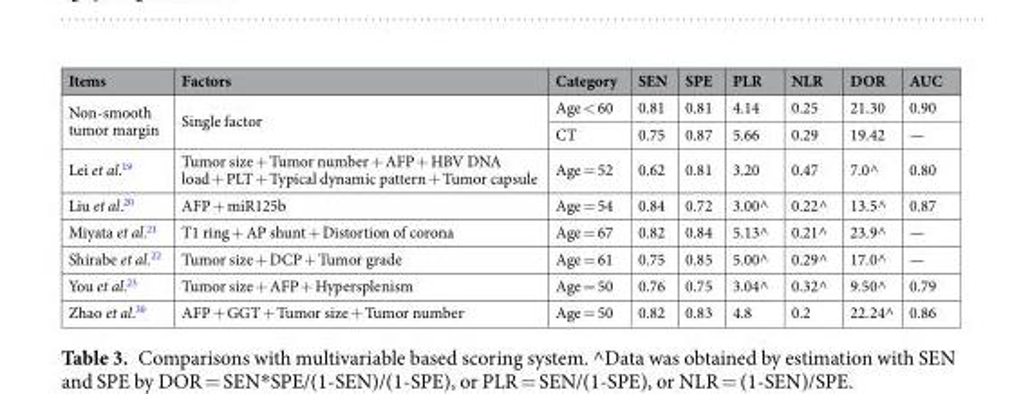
<table><thead><tr><td>Items</td><td>Factors</td><td>Category</td><td>SEN</td><td>SPE</td><td>PLR</td><td>NLR</td><td>DOR</td><td>AUC</td></tr></thead><tbody><tr><td rowspan="2">Non-smooth tumor margin</td><td rowspan="2">Single factor</td><td>Age &lt; 60</td><td>0.81</td><td>0.81</td><td>4.14</td><td>0.25</td><td>21.30</td><td>0.90</td></tr><tr><td>CT</td><td>0.75</td><td>0.87</td><td>5.66</td><td>0.29</td><td>19.42</td><td>—</td></tr><tr><td>Lei et al.<sup>19</sup></td><td>Tumor size + Tumor number + AFP + HBV DNA load + PLT + Typical dynamic pattern + Tumor capsule</td><td>Age = 52</td><td>0.62</td><td>0.81</td><td>3.20</td><td>0.47</td><td>7.0^</td><td>0.80</td></tr><tr><td>Liu et al.<sup>20</sup></td><td>AFP + miR125b</td><td>Age = 54</td><td>0.84</td><td>0.72</td><td>3.00^</td><td>0.22^</td><td>13.5^</td><td>0.87</td></tr><tr><td>Miyata et al.<sup>21</sup></td><td>T1 ring + AP shunt + Distortion of corona</td><td>Age = 67</td><td>0.82</td><td>0.84</td><td>5.13^</td><td>0.21^</td><td>23.9^</td><td>—</td></tr><tr><td>Shirabe et al.<sup>22</sup></td><td>Tumor size + DCP + Tumor grade</td><td>Age = 61</td><td>0.75</td><td>0.85</td><td>5.00^</td><td>0.29^</td><td>17.0^</td><td>—</td></tr><tr><td>You et al.<sup>23</sup></td><td>Tumor size + AFP + Hypersplenism</td><td>Age = 50</td><td>0.76</td><td>0.75</td><td>3.04^</td><td>0.32^</td><td>9.50^</td><td>0.79</td></tr><tr><td>Zhao et al.<sup>30</sup></td><td>AFP + GGT + Tumor size + Tumor number</td><td>Age = 50</td><td>0.82</td><td>0.83</td><td>4.8</td><td>0.2</td><td>22.24^</td><td>0.86</td></tr></tbody></table>